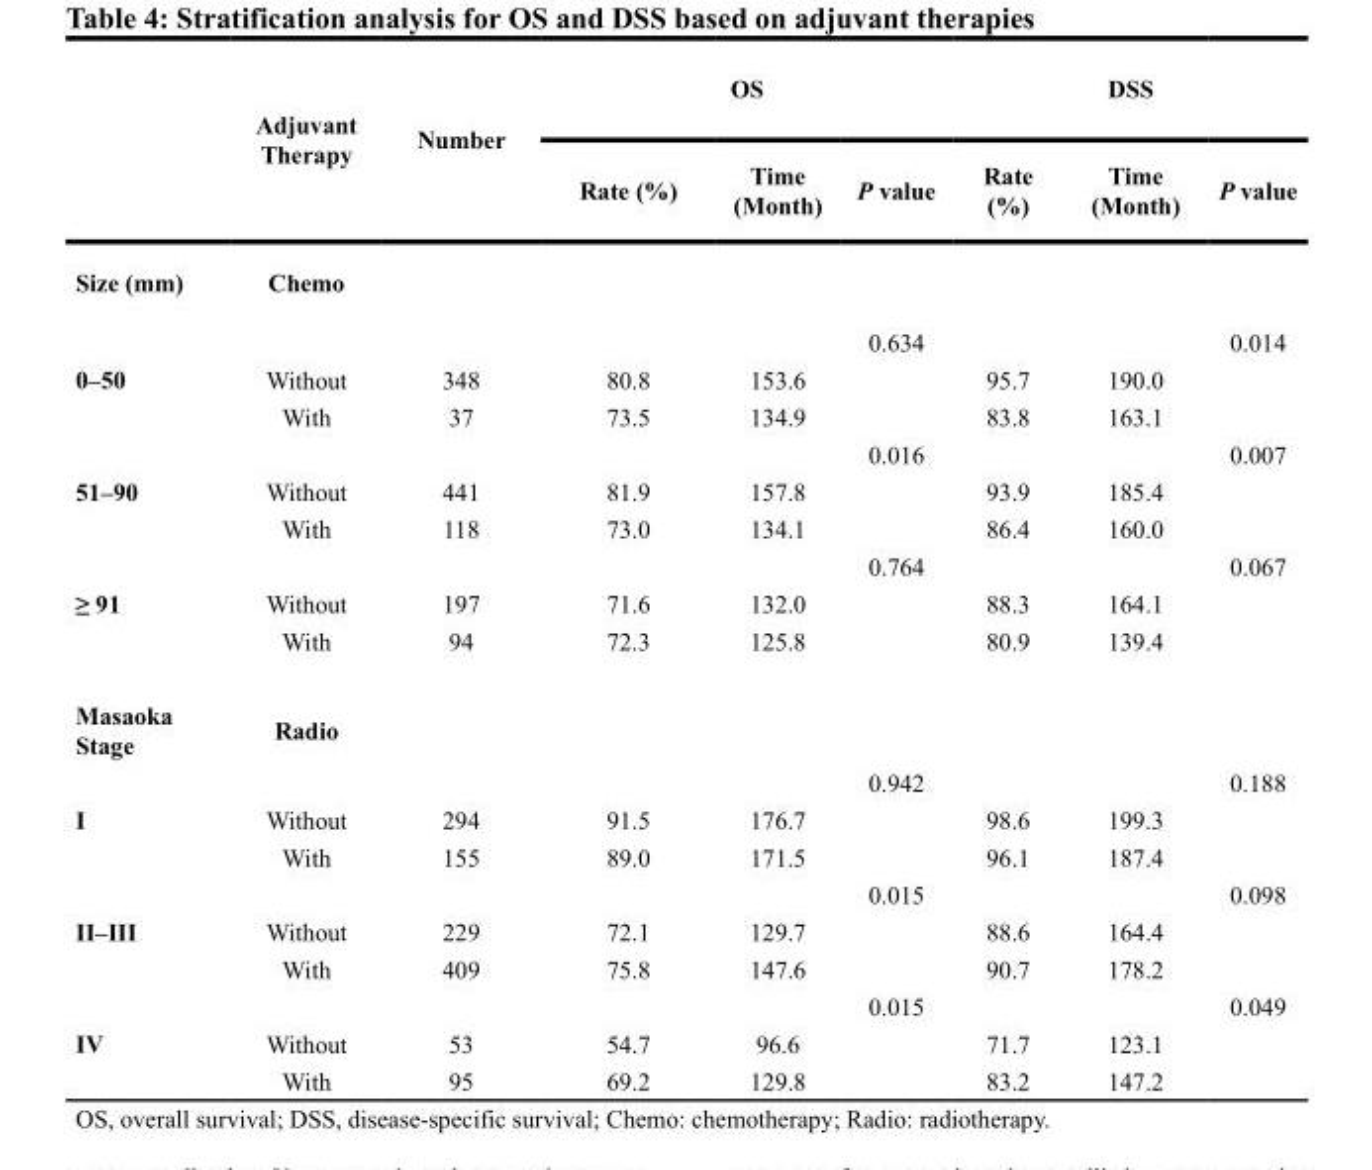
<table><thead><tr><td rowspan="2"></td><td rowspan="2">Adjuvant Therapy</td><td rowspan="2">Number</td><td colspan="3">OS</td><td colspan="3">DSS</td></tr><tr><td>Rate (%)</td><td>Time (Month)</td><td>P value</td><td>Rate (%)</td><td>Time (Month)</td><td>P value</td></tr></thead><tbody><tr><td>Size (mm)</td><td>Chemo</td><td></td><td></td><td></td><td></td><td></td><td></td><td></td></tr><tr><td rowspan="3">0–50</td><td></td><td></td><td></td><td></td><td>0.634</td><td></td><td></td><td>0.014</td></tr><tr><td>Without</td><td>348</td><td>80.8</td><td>153.6</td><td></td><td>95.7</td><td>190.0</td><td></td></tr><tr><td>With</td><td>37</td><td>73.5</td><td>134.9</td><td></td><td>83.8</td><td>163.1</td><td></td></tr><tr><td rowspan="3">51–90</td><td></td><td></td><td></td><td></td><td>0.016</td><td></td><td></td><td>0.007</td></tr><tr><td>Without</td><td>441</td><td>81.9</td><td>157.8</td><td></td><td>93.9</td><td>185.4</td><td></td></tr><tr><td>With</td><td>118</td><td>73.0</td><td>134.1</td><td></td><td>86.4</td><td>160.0</td><td></td></tr><tr><td rowspan="3">≥ 91</td><td></td><td></td><td></td><td></td><td>0.764</td><td></td><td></td><td>0.067</td></tr><tr><td>Without</td><td>197</td><td>71.6</td><td>132.0</td><td></td><td>88.3</td><td>164.1</td><td></td></tr><tr><td>With</td><td>94</td><td>72.3</td><td>125.8</td><td></td><td>80.9</td><td>139.4</td><td></td></tr><tr><td>Masaoka Stage</td><td>Radio</td><td></td><td></td><td></td><td></td><td></td><td></td><td></td></tr><tr><td rowspan="3">I</td><td></td><td></td><td></td><td></td><td>0.942</td><td></td><td></td><td>0.188</td></tr><tr><td>Without</td><td>294</td><td>91.5</td><td>176.7</td><td></td><td>98.6</td><td>199.3</td><td></td></tr><tr><td>With</td><td>155</td><td>89.0</td><td>171.5</td><td></td><td>96.1</td><td>187.4</td><td></td></tr><tr><td rowspan="3">II–III</td><td></td><td></td><td></td><td></td><td>0.015</td><td></td><td></td><td>0.098</td></tr><tr><td>Without</td><td>229</td><td>72.1</td><td>129.7</td><td></td><td>88.6</td><td>164.4</td><td></td></tr><tr><td>With</td><td>409</td><td>75.8</td><td>147.6</td><td></td><td>90.7</td><td>178.2</td><td></td></tr><tr><td rowspan="3">IV</td><td></td><td></td><td></td><td></td><td>0.015</td><td></td><td></td><td>0.049</td></tr><tr><td>Without</td><td>53</td><td>54.7</td><td>96.6</td><td></td><td>71.7</td><td>123.1</td><td></td></tr><tr><td>With</td><td>95</td><td>69.2</td><td>129.8</td><td></td><td>83.2</td><td>147.2</td><td></td></tr></tbody></table>